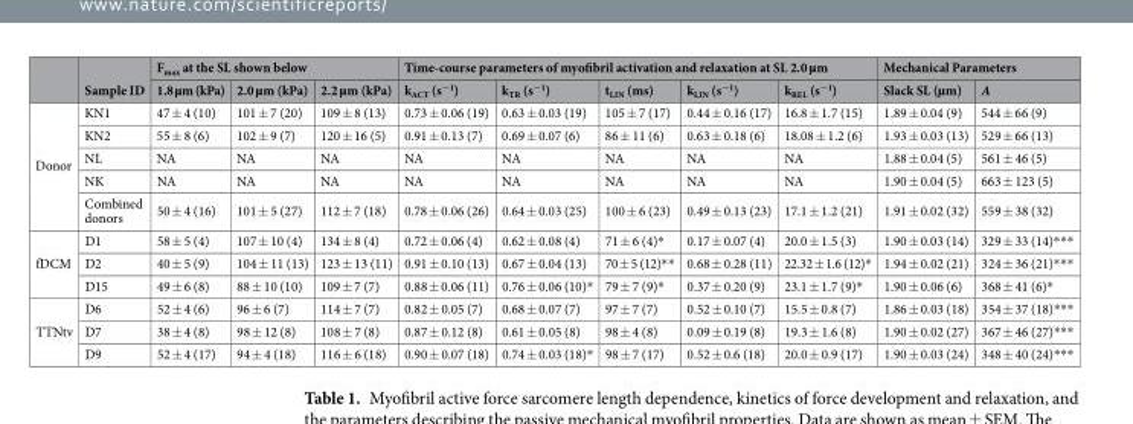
<table><thead><tr><td rowspan="2"></td><td rowspan="2">Sample ID</td><td colspan="3">F<sub>max</sub> at the SL shown below</td><td colspan="5">Time-course parameters of myofibril activation and relaxation at SL 2.0 µm</td><td colspan="2">Mechanical Parameters</td></tr><tr><td>1.8 µm (kPa)</td><td>2.0 µm (kPa)</td><td>2.2 µm (kPa)</td><td>k<sub>ACT</sub> (s<sup>−1</sup>)</td><td>k<sub>TR</sub> (s<sup>−1</sup>)</td><td>t<sub>LIN</sub> (ms)</td><td>k<sub>LIN</sub> (s<sup>−1</sup>)</td><td>k<sub>REL</sub> (s<sup>−1</sup>)</td><td>Slack SL (µm)</td><td>A</td></tr></thead><tbody><tr><td rowspan="5">Donor</td><td>KN1</td><td>47 ± 4 (10)</td><td>101 ± 7 (20)</td><td>109 ± 8 (13)</td><td>0.73 ± 0.06 (19)</td><td>0.63 ± 0.03 (19)</td><td>105 ± 7 (17)</td><td>0.44 ± 0.16 (17)</td><td>16.8 ± 1.7 (15)</td><td>1.89 ± 0.04 (9)</td><td>544 ± 66 (9)</td></tr><tr><td>KN2</td><td>55 ± 8 (6)</td><td>102 ± 9 (7)</td><td>120 ± 16 (5)</td><td>0.91 ± 0.13 (7)</td><td>0.69 ± 0.07 (6)</td><td>86 ± 11 (6)</td><td>0.63 ± 0.18 (6)</td><td>18.08 ± 1.2 (6)</td><td>1.93 ± 0.03 (13)</td><td>529 ± 66 (13)</td></tr><tr><td>NL</td><td>NA</td><td>NA</td><td>NA</td><td>NA</td><td>NA</td><td>NA</td><td>NA</td><td>NA</td><td>1.88 ± 0.04 (5)</td><td>561 ± 46 (5)</td></tr><tr><td>NK</td><td>NA</td><td>NA</td><td>NA</td><td>NA</td><td>NA</td><td>NA</td><td>NA</td><td>NA</td><td>1.90 ± 0.04 (5)</td><td>663 ± 123 (5)</td></tr><tr><td>Combined donors</td><td>50 ± 4 (16)</td><td>101 ± 5 (27)</td><td>112 ± 7 (18)</td><td>0.78 ± 0.06 (26)</td><td>0.64 ± 0.03 (25)</td><td>100 ± 6 (23)</td><td>0.49 ± 0.13 (23)</td><td>17.1 ± 1.2 (21)</td><td>1.91 ± 0.02 (32)</td><td>559 ± 38 (32)</td></tr><tr><td rowspan="3">fDCM</td><td>D1</td><td>58 ± 5 (4)</td><td>107 ± 10 (4)</td><td>134 ± 8 (4)</td><td>0.72 ± 0.06 (4)</td><td>0.62 ± 0.08 (4)</td><td>71 ± 6 (4)*</td><td>0.17 ± 0.07 (4)</td><td>20.0 ± 1.5 (3)</td><td>1.90 ± 0.03 (14)</td><td>329 ± 33 (14)***</td></tr><tr><td>D2</td><td>40 ± 5 (9)</td><td>104 ± 11 (13)</td><td>123 ± 13 (11)</td><td>0.91 ± 0.10 (13)</td><td>0.67 ± 0.04 (13)</td><td>70 ± 5 (12)**</td><td>0.68 ± 0.28 (11)</td><td>22.32 ± 1.6 (12)*</td><td>1.94 ± 0.02 (21)</td><td>324 ± 36 (21)***</td></tr><tr><td>D15</td><td>49 ± 6 (8)</td><td>88 ± 10 (10)</td><td>109 ± 7 (7)</td><td>0.88 ± 0.06 (11)</td><td>0.76 ± 0.06 (10)*</td><td>79 ± 7 (9)*</td><td>0.37 ± 0.20 (9)</td><td>23.1 ± 1.7 (9)*</td><td>1.90 ± 0.06 (6)</td><td>368 ± 41 (6)*</td></tr><tr><td rowspan="3">TTNtv</td><td>D6</td><td>52 ± 4 (6)</td><td>96 ± 6 (7)</td><td>114 ± 7 (7)</td><td>0.82 ± 0.05 (7)</td><td>0.68 ± 0.07 (7)</td><td>97 ± 7 (7)</td><td>0.52 ± 0.10 (7)</td><td>15.5 ± 0.8 (7)</td><td>1.86 ± 0.03 (18)</td><td>354 ± 37 (18)***</td></tr><tr><td>D7</td><td>38 ± 4 (8)</td><td>98 ± 12 (8)</td><td>108 ± 7 (8)</td><td>0.87 ± 0.12 (8)</td><td>0.61 ± 0.05 (8)</td><td>98 ± 4 (8)</td><td>0.09 ± 0.19 (8)</td><td>19.3 ± 1.6 (8)</td><td>1.90 ± 0.02 (27)</td><td>367 ± 46 (27)***</td></tr><tr><td>D9</td><td>52 ± 4 (17)</td><td>94 ± 4 (18)</td><td>116 ± 6 (18)</td><td>0.90 ± 0.07 (18)</td><td>0.74 ± 0.03 (18)*</td><td>98 ± 7 (17)</td><td>0.52 ± 0.6 (18)</td><td>20.0 ± 0.9 (17)</td><td>1.90 ± 0.03 (24)</td><td>348 ± 40 (24)***</td></tr></tbody></table>